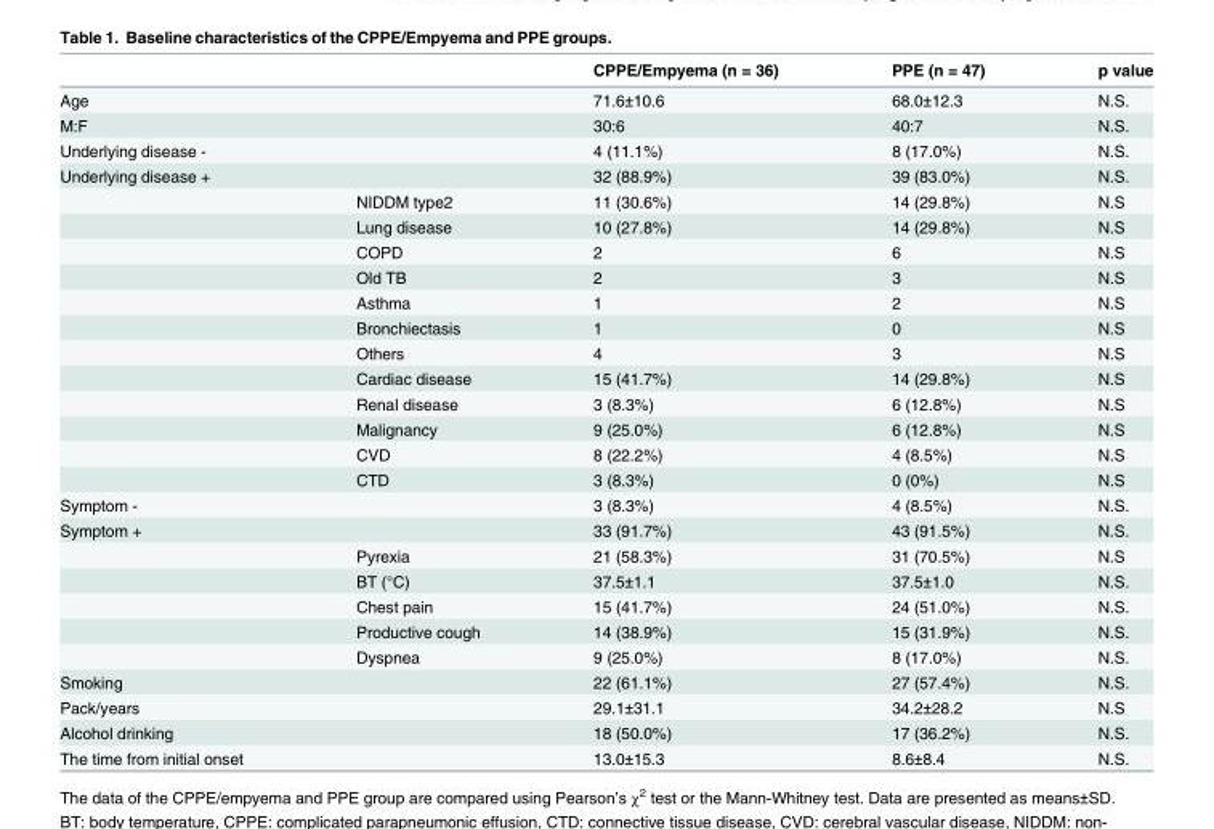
<table><thead><tr><td></td><td></td><td>CPPE/Empyema (n = 36)</td><td>PPE (n = 47)</td><td>p value</td></tr></thead><tbody><tr><td>Age</td><td></td><td>71.6±10.6</td><td>68.0±12.3</td><td>N.S.</td></tr><tr><td>M:F</td><td></td><td>30:6</td><td>40:7</td><td>N.S.</td></tr><tr><td>Underlying disease -</td><td></td><td>4 (11.1%)</td><td>8 (17.0%)</td><td>N.S.</td></tr><tr><td rowspan="13">Underlying disease +</td><td></td><td>32 (88.9%)</td><td>39 (83.0%)</td><td>N.S.</td></tr><tr><td>NIDDM type2</td><td>11 (30.6%)</td><td>14 (29.8%)</td><td>N.S</td></tr><tr><td>Lung disease</td><td>10 (27.8%)</td><td>14 (29.8%)</td><td>N.S</td></tr><tr><td>COPD</td><td>2</td><td>6</td><td>N.S</td></tr><tr><td>Old TB</td><td>2</td><td>3</td><td>N.S</td></tr><tr><td>Asthma</td><td>1</td><td>2</td><td>N.S</td></tr><tr><td>Bronchiectasis</td><td>1</td><td>0</td><td>N.S</td></tr><tr><td>Others</td><td>4</td><td>3</td><td>N.S</td></tr><tr><td>Cardiac disease</td><td>15 (41.7%)</td><td>14 (29.8%)</td><td>N.S</td></tr><tr><td>Renal disease</td><td>3 (8.3%)</td><td>6 (12.8%)</td><td>N.S</td></tr><tr><td>Malignancy</td><td>9 (25.0%)</td><td>6 (12.8%)</td><td>N.S</td></tr><tr><td>CVD</td><td>8 (22.2%)</td><td>4 (8.5%)</td><td>N.S</td></tr><tr><td>CTD</td><td>3 (8.3%)</td><td>0 (0%)</td><td>N.S</td></tr><tr><td>Symptom -</td><td></td><td>3 (8.3%)</td><td>4 (8.5%)</td><td>N.S.</td></tr><tr><td rowspan="6">Symptom +</td><td></td><td>33 (91.7%)</td><td>43 (91.5%)</td><td>N.S.</td></tr><tr><td>Pyrexia</td><td>21 (58.3%)</td><td>31 (70.5%)</td><td>N.S</td></tr><tr><td>BT (°C)</td><td>37.5±1.1</td><td>37.5±1.0</td><td>N.S.</td></tr><tr><td>Chest pain</td><td>15 (41.7%)</td><td>24 (51.0%)</td><td>N.S.</td></tr><tr><td>Productive cough</td><td>14 (38.9%)</td><td>15 (31.9%)</td><td>N.S.</td></tr><tr><td>Dyspnea</td><td>9 (25.0%)</td><td>8 (17.0%)</td><td>N.S.</td></tr><tr><td>Smoking</td><td></td><td>22 (61.1%)</td><td>27 (57.4%)</td><td>N.S.</td></tr><tr><td>Pack/years</td><td></td><td>29.1±31.1</td><td>34.2±28.2</td><td>N.S</td></tr><tr><td>Alcohol drinking</td><td></td><td>18 (50.0%)</td><td>17 (36.2%)</td><td>N.S.</td></tr><tr><td>The time from initial onset</td><td></td><td>13.0±15.3</td><td>8.6±8.4</td><td>N.S.</td></tr></tbody></table>